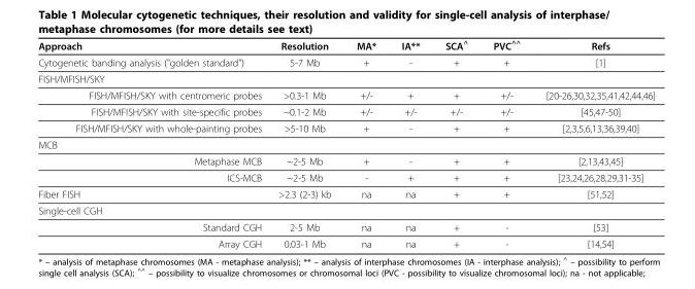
<table><thead><tr><td>Approach</td><td>Resolution</td><td>MA*</td><td>IA**</td><td>SCA<sup>^</sup></td><td>PVC^^</td><td>Refs</td></tr></thead><tbody><tr><td>Cytogenetic banding analysis (&quot;golden standard”)</td><td>5-7 Mb</td><td>+</td><td>-</td><td>+</td><td>+</td><td>[1]</td></tr><tr><td colspan="7">FISH/MFISH/SKY</td></tr><tr><td>FISH/MFISH/SKY with centromeric probes</td><td>&gt;0.3-1 Mb</td><td>+/-</td><td>+</td><td>+</td><td>+/-</td><td>[20-26,30,32,35,41,42,44,46]</td></tr><tr><td>FISH/MFISH/SKY with site-specific probes</td><td>~0.1-2 Mb</td><td>+/-</td><td>+/-</td><td>+/-</td><td>+/-</td><td>[45,47-50]</td></tr><tr><td>FISH/MFISH/SKY with whole-painting probes</td><td>&gt;5-10 Mb</td><td>+</td><td>-</td><td>+</td><td>+</td><td>[2,3,5,6,13,36,39,40]</td></tr><tr><td colspan="7">MCB</td></tr><tr><td>Metaphase MCB</td><td>~2-5 Mb</td><td>+</td><td>-</td><td>+</td><td>+</td><td>[2,13,43,45]</td></tr><tr><td>ICS-MCB</td><td>~2-5 Mb</td><td>-</td><td>+</td><td>+</td><td>+</td><td>[23,24,26,28,29,31-35]</td></tr><tr><td>Fiber FISH</td><td>&gt;2.3 (2-3) kb</td><td>na</td><td>na</td><td>+</td><td>+</td><td>[51,52]</td></tr><tr><td colspan="7">Single-cell CGH</td></tr><tr><td>Standard CGH</td><td>2-5 Mb</td><td>na</td><td>na</td><td>+</td><td>-</td><td>[53]</td></tr><tr><td>Array CGH</td><td>0.03-1 Mb</td><td>na</td><td>na</td><td>+</td><td>-</td><td>[14,54]</td></tr></tbody></table>